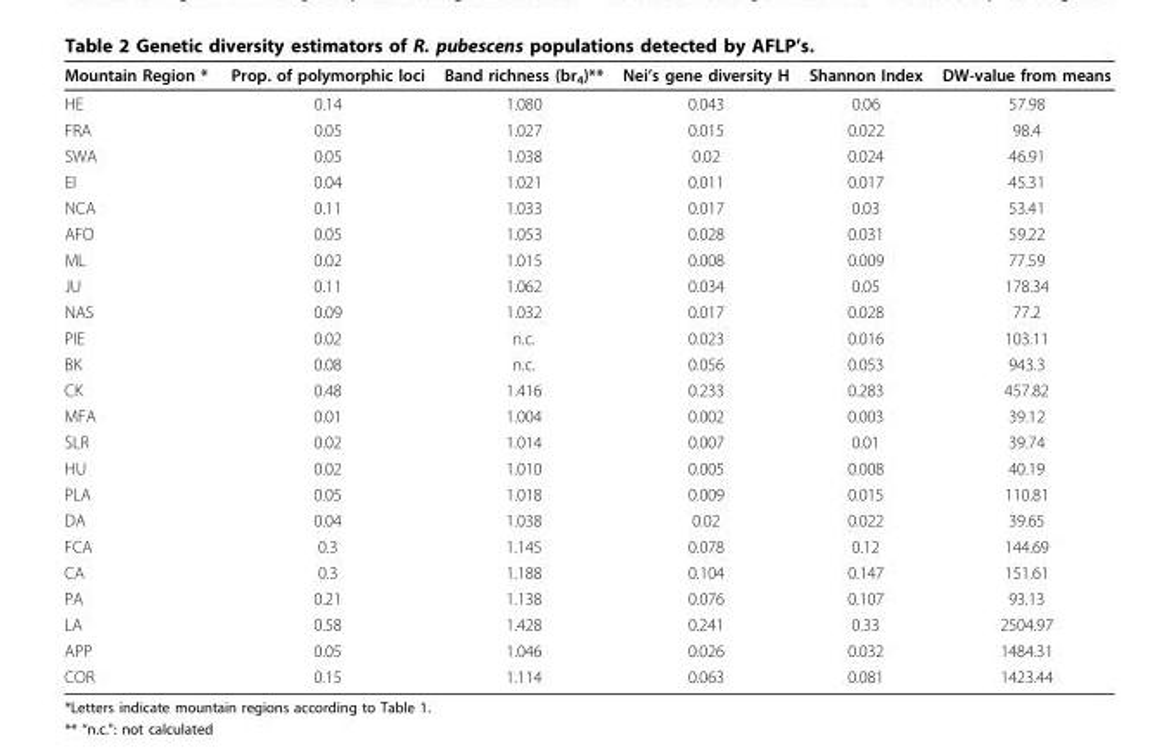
<table><thead><tr><td>Mountain Region *</td><td>Prop. of polymorphic loci</td><td>Band richness (br<sub>4</sub>)**</td><td>Nei’s gene diversity H</td><td>Shannon Index</td><td>DW-value from means</td></tr></thead><tbody><tr><td>HE</td><td>0.14</td><td>1.080</td><td>0.043</td><td>0.06</td><td>57.98</td></tr><tr><td>FRA</td><td>0.05</td><td>1.027</td><td>0.015</td><td>0.022</td><td>98.4</td></tr><tr><td>SWA</td><td>0.05</td><td>1.038</td><td>0.02</td><td>0.024</td><td>46.91</td></tr><tr><td>EI</td><td>0.04</td><td>1.021</td><td>0.011</td><td>0.017</td><td>45.31</td></tr><tr><td>NCA</td><td>0.11</td><td>1.033</td><td>0.017</td><td>0.03</td><td>53.41</td></tr><tr><td>AFO</td><td>0.05</td><td>1.053</td><td>0.028</td><td>0.031</td><td>59.22</td></tr><tr><td>ML</td><td>0.02</td><td>1.015</td><td>0.008</td><td>0.009</td><td>77.59</td></tr><tr><td>JU</td><td>0.11</td><td>1.062</td><td>0.034</td><td>0.05</td><td>178.34</td></tr><tr><td>NAS</td><td>0.09</td><td>1.032</td><td>0.017</td><td>0.028</td><td>77.2</td></tr><tr><td>PIE</td><td>0.02</td><td>n.c.</td><td>0.023</td><td>0.016</td><td>103.11</td></tr><tr><td>BK</td><td>0.08</td><td>n.c.</td><td>0.056</td><td>0.053</td><td>943.3</td></tr><tr><td>CK</td><td>0.48</td><td>1.416</td><td>0.233</td><td>0.283</td><td>457.82</td></tr><tr><td>MFA</td><td>0.01</td><td>1.004</td><td>0.002</td><td>0.003</td><td>39.12</td></tr><tr><td>SLR</td><td>0.02</td><td>1.014</td><td>0.007</td><td>0.01</td><td>39.74</td></tr><tr><td>HU</td><td>0.02</td><td>1.010</td><td>0.005</td><td>0.008</td><td>40.19</td></tr><tr><td>PLA</td><td>0.05</td><td>1.018</td><td>0.009</td><td>0.015</td><td>110.81</td></tr><tr><td>DA</td><td>0.04</td><td>1.038</td><td>0.02</td><td>0.022</td><td>39.65</td></tr><tr><td>FCA</td><td>0.3</td><td>1.145</td><td>0.078</td><td>0.12</td><td>144.69</td></tr><tr><td>CA</td><td>0.3</td><td>1.188</td><td>0.104</td><td>0.147</td><td>151.61</td></tr><tr><td>PA</td><td>0.21</td><td>1.138</td><td>0.076</td><td>0.107</td><td>93.13</td></tr><tr><td>LA</td><td>0.58</td><td>1.428</td><td>0.241</td><td>0.33</td><td>2504.97</td></tr><tr><td>APP</td><td>0.05</td><td>1.046</td><td>0.026</td><td>0.032</td><td>1484.31</td></tr><tr><td>COR</td><td>0.15</td><td>1.114</td><td>0.063</td><td>0.081</td><td>1423.44</td></tr></tbody></table>